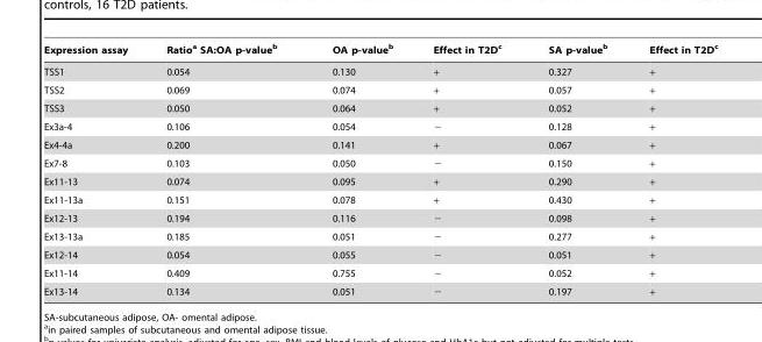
<table><thead><tr><td>Expression assay</td><td>Ratioa SA:OA p-valueb</td><td>OA p-value<sup>b</sup></td><td>Effect in T2D<sup>c</sup></td><td>SA p-value<sup>b</sup></td><td>Effect in T2D<sup>c</sup></td></tr></thead><tbody><tr><td>TSS1</td><td>0.054</td><td>0.130</td><td>+</td><td>0.327</td><td>+</td></tr><tr><td>TSS2</td><td>0.069</td><td>0.074</td><td>+</td><td>0.057</td><td>+</td></tr><tr><td>TSS3</td><td>0.050</td><td>0.064</td><td>+</td><td>0.052</td><td>+</td></tr><tr><td>Ex3a-4</td><td>0.106</td><td>0.054</td><td>−</td><td>0.128</td><td>+</td></tr><tr><td>Ex4-4a</td><td>0.200</td><td>0.141</td><td>+</td><td>0.067</td><td>+</td></tr><tr><td>Ex7-8</td><td>0.103</td><td>0.050</td><td>−</td><td>0.150</td><td>+</td></tr><tr><td>Ex11-13</td><td>0.074</td><td>0.095</td><td>+</td><td>0.290</td><td>+</td></tr><tr><td>Ex11-13a</td><td>0.151</td><td>0.078</td><td>+</td><td>0.430</td><td>+</td></tr><tr><td>Ex12-13</td><td>0.194</td><td>0.116</td><td>−</td><td>0.098</td><td>+</td></tr><tr><td>Ex13-13a</td><td>0.185</td><td>0.051</td><td>−</td><td>0.277</td><td>+</td></tr><tr><td>Ex12-14</td><td>0.054</td><td>0.055</td><td>−</td><td>0.051</td><td>+</td></tr><tr><td>Ex11-14</td><td>0.409</td><td>0.755</td><td>−</td><td>0.052</td><td>+</td></tr><tr><td>Ex13-14</td><td>0.134</td><td>0.051</td><td>−</td><td>0.197</td><td>+</td></tr></tbody></table>